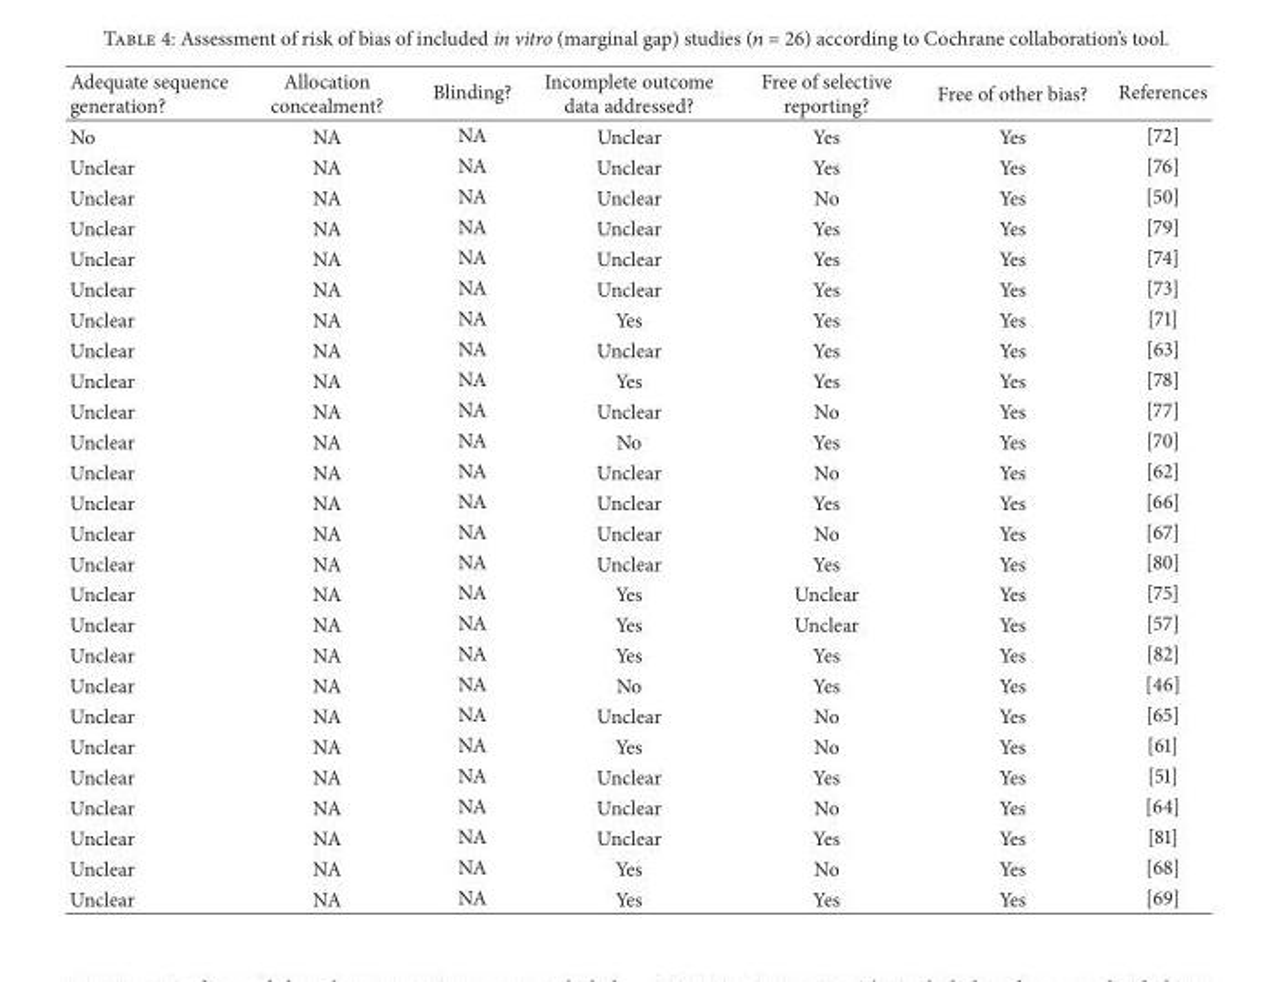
<table><thead><tr><td>Adequate sequence generation?</td><td>Allocation concealment?</td><td>Blinding?</td><td>Incomplete outcome data addressed?</td><td>Free of selective reporting?</td><td>Free of other bias?</td><td>References</td></tr></thead><tbody><tr><td>No</td><td>NA</td><td>NA</td><td>Unclear</td><td>Yes</td><td>Yes</td><td>[72]</td></tr><tr><td>Unclear</td><td>NA</td><td>NA</td><td>Unclear</td><td>Yes</td><td>Yes</td><td>[76]</td></tr><tr><td>Unclear</td><td>NA</td><td>NA</td><td>Unclear</td><td>No</td><td>Yes</td><td>[50]</td></tr><tr><td>Unclear</td><td>NA</td><td>NA</td><td>Unclear</td><td>Yes</td><td>Yes</td><td>[79]</td></tr><tr><td>Unclear</td><td>NA</td><td>NA</td><td>Unclear</td><td>Yes</td><td>Yes</td><td>[74]</td></tr><tr><td>Unclear</td><td>NA</td><td>NA</td><td>Unclear</td><td>Yes</td><td>Yes</td><td>[73]</td></tr><tr><td>Unclear</td><td>NA</td><td>NA</td><td>Yes</td><td>Yes</td><td>Yes</td><td>[71]</td></tr><tr><td>Unclear</td><td>NA</td><td>NA</td><td>Unclear</td><td>Yes</td><td>Yes</td><td>[63]</td></tr><tr><td>Unclear</td><td>NA</td><td>NA</td><td>Yes</td><td>Yes</td><td>Yes</td><td>[78]</td></tr><tr><td>Unclear</td><td>NA</td><td>NA</td><td>Unclear</td><td>No</td><td>Yes</td><td>[77]</td></tr><tr><td>Unclear</td><td>NA</td><td>NA</td><td>No</td><td>Yes</td><td>Yes</td><td>[70]</td></tr><tr><td>Unclear</td><td>NA</td><td>NA</td><td>Unclear</td><td>No</td><td>Yes</td><td>[62]</td></tr><tr><td>Unclear</td><td>NA</td><td>NA</td><td>Unclear</td><td>Yes</td><td>Yes</td><td>[66]</td></tr><tr><td>Unclear</td><td>NA</td><td>NA</td><td>Unclear</td><td>No</td><td>Yes</td><td>[67]</td></tr><tr><td>Unclear</td><td>NA</td><td>NA</td><td>Unclear</td><td>Yes</td><td>Yes</td><td>[80]</td></tr><tr><td>Unclear</td><td>NA</td><td>NA</td><td>Yes</td><td>Unclear</td><td>Yes</td><td>[75]</td></tr><tr><td>Unclear</td><td>NA</td><td>NA</td><td>Yes</td><td>Unclear</td><td>Yes</td><td>[57]</td></tr><tr><td>Unclear</td><td>NA</td><td>NA</td><td>Yes</td><td>Yes</td><td>Yes</td><td>[82]</td></tr><tr><td>Unclear</td><td>NA</td><td>NA</td><td>No</td><td>Yes</td><td>Yes</td><td>[46]</td></tr><tr><td>Unclear</td><td>NA</td><td>NA</td><td>Unclear</td><td>No</td><td>Yes</td><td>[65]</td></tr><tr><td>Unclear</td><td>NA</td><td>NA</td><td>Yes</td><td>No</td><td>Yes</td><td>[61]</td></tr><tr><td>Unclear</td><td>NA</td><td>NA</td><td>Unclear</td><td>Yes</td><td>Yes</td><td>[51]</td></tr><tr><td>Unclear</td><td>NA</td><td>NA</td><td>Unclear</td><td>No</td><td>Yes</td><td>[64]</td></tr><tr><td>Unclear</td><td>NA</td><td>NA</td><td>Unclear</td><td>Yes</td><td>Yes</td><td>[81]</td></tr><tr><td>Unclear</td><td>NA</td><td>NA</td><td>Yes</td><td>No</td><td>Yes</td><td>[68]</td></tr><tr><td>Unclear</td><td>NA</td><td>NA</td><td>Yes</td><td>Yes</td><td>Yes</td><td>[69]</td></tr></tbody></table>